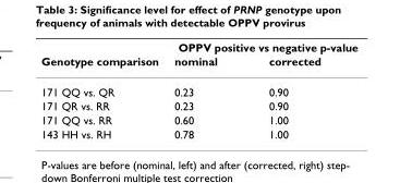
<table><thead><tr><td rowspan="2">Genotype comparison</td><td colspan="2">OPPV positive vs negative p-value</td></tr><tr><td>nominal</td><td>corrected</td></tr></thead><tbody><tr><td>171 QQ vs. QR</td><td>0.23</td><td>0.90</td></tr><tr><td>171 QR vs. RR</td><td>0.23</td><td>0.90</td></tr><tr><td>171 QQ vs. RR</td><td>0.60</td><td>1.00</td></tr><tr><td>143 HH vs. RH</td><td>0.78</td><td>1.00</td></tr></tbody></table>